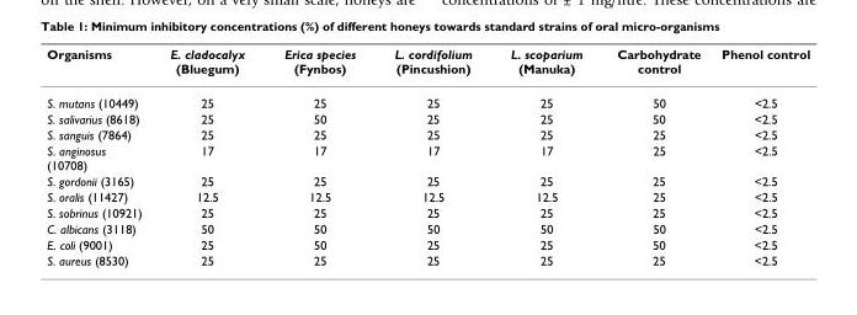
<table><thead><tr><td>Organisms</td><td>E. cladocalyx (Bluegum)</td><td>Erica species (Fynbos)</td><td>L. cordifolium (Pincushion)</td><td>L. scoparium (Manuka)</td><td>Carbohydrate control</td><td>Phenol control</td></tr></thead><tbody><tr><td>S. mutans (10449)</td><td>25</td><td>25</td><td>25</td><td>25</td><td>50</td><td>&lt;2.5</td></tr><tr><td>S. salivarius (8618)</td><td>25</td><td>50</td><td>25</td><td>25</td><td>50</td><td>&lt;2.5</td></tr><tr><td>S. sanguis (7864)</td><td>25</td><td>25</td><td>25</td><td>25</td><td>25</td><td>&lt;2.5</td></tr><tr><td>S. anginosus (10708)</td><td>17</td><td>17</td><td>17</td><td>17</td><td>25</td><td>&lt;2.5</td></tr><tr><td>S. gordonii (3165)</td><td>25</td><td>25</td><td>25</td><td>25</td><td>25</td><td>&lt;2.5</td></tr><tr><td>S. oralis (11427)</td><td>12.5</td><td>12.5</td><td>12.5</td><td>12.5</td><td>25</td><td>&lt;2.5</td></tr><tr><td>S. sobrinus (10921)</td><td>25</td><td>25</td><td>25</td><td>25</td><td>25</td><td>&lt;2.5</td></tr><tr><td>C. albicans (3118)</td><td>50</td><td>50</td><td>50</td><td>50</td><td>50</td><td>&lt;2.5</td></tr><tr><td>E. coli (9001)</td><td>25</td><td>50</td><td>25</td><td>25</td><td>50</td><td>&lt;2.5</td></tr><tr><td>S. aureus (8530)</td><td>25</td><td>25</td><td>25</td><td>25</td><td>25</td><td>&lt;2.5</td></tr></tbody></table>